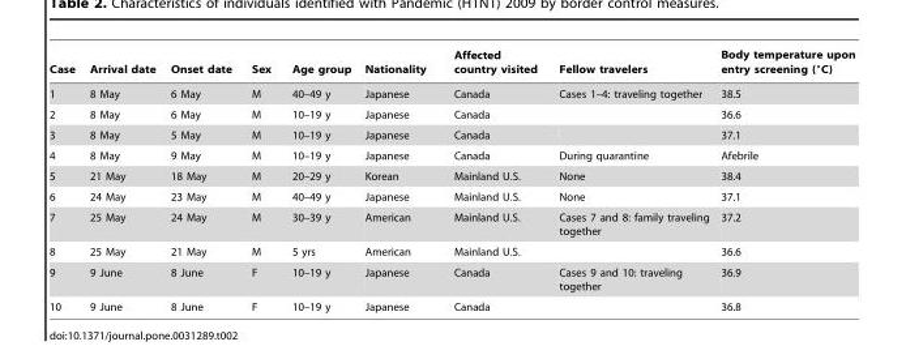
<table><thead><tr><td>Case</td><td>Arrival date</td><td>Onset date</td><td>Sex</td><td>Age group</td><td>Nationality</td><td>Affected country visited</td><td>Fellow travelers</td><td>Body temperature upon entry screening (°C)</td></tr></thead><tbody><tr><td>1</td><td>8 May</td><td>6 May</td><td>M</td><td>40–49 y</td><td>Japanese</td><td>Canada</td><td>Cases 1–4: traveling together</td><td>38.5</td></tr><tr><td>2</td><td>8 May</td><td>6 May</td><td>M</td><td>10–19 y</td><td>Japanese</td><td>Canada</td><td></td><td>36.6</td></tr><tr><td>3</td><td>8 May</td><td>5 May</td><td>M</td><td>10–19 y</td><td>Japanese</td><td>Canada</td><td></td><td>37.1</td></tr><tr><td>4</td><td>8 May</td><td>9 May</td><td>M</td><td>10–19 y</td><td>Japanese</td><td>Canada</td><td>During quarantine</td><td>Afebrile</td></tr><tr><td>5</td><td>21 May</td><td>18 May</td><td>M</td><td>20–29 y</td><td>Korean</td><td>Mainland U.S.</td><td>None</td><td>38.4</td></tr><tr><td>6</td><td>24 May</td><td>23 May</td><td>M</td><td>40–49 y</td><td>Japanese</td><td>Mainland U.S.</td><td>None</td><td>37.1</td></tr><tr><td>7</td><td>25 May</td><td>24 May</td><td>M</td><td>30–39 y</td><td>American</td><td>Mainland U.S.</td><td>Cases 7 and 8: family traveling together</td><td>37.2</td></tr><tr><td>8</td><td>25 May</td><td>21 May</td><td>M</td><td>5 yrs</td><td>American</td><td>Mainland U.S.</td><td></td><td>36.6</td></tr><tr><td>9</td><td>9 June</td><td>8 June</td><td>F</td><td>10–19 y</td><td>Japanese</td><td>Canada</td><td>Cases 9 and 10: traveling together</td><td>36.9</td></tr><tr><td>10</td><td>9 June</td><td>8 June</td><td>F</td><td>10–19 y</td><td>Japanese</td><td>Canada</td><td></td><td>36.8</td></tr></tbody></table>